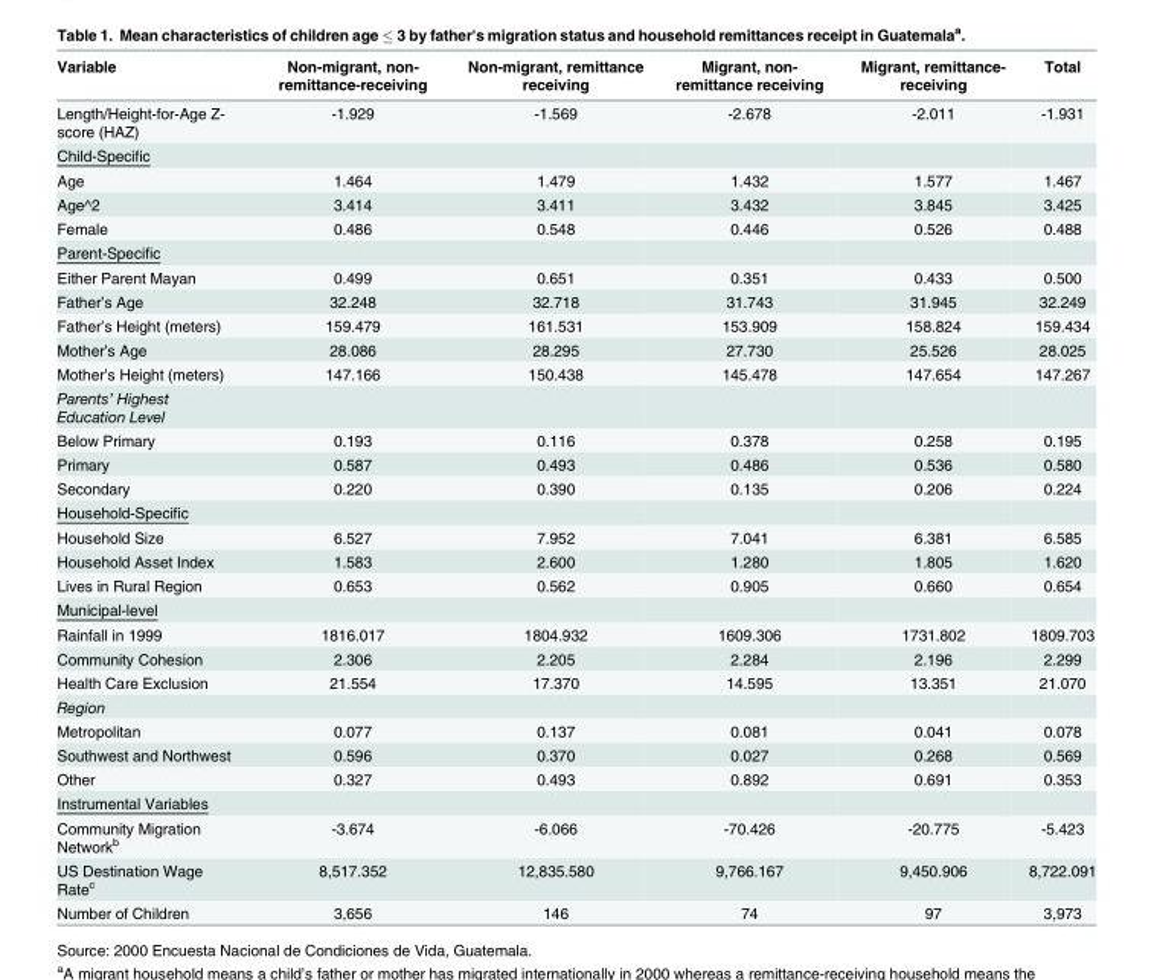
<table><thead><tr><td>Variable</td><td>Non-migrant, non- remittance-receiving</td><td>Non-migrant, remittance receiving</td><td>Migrant, non- remittance receiving</td><td>Migrant, remittance- receiving</td><td>Total</td></tr></thead><tbody><tr><td>Length/Height-for-Age Z- score (HAZ)</td><td>-1.929</td><td>-1.569</td><td>-2.678</td><td>-2.011</td><td>-1.931</td></tr><tr><td colspan="6">Child-Specific</td></tr><tr><td>Age</td><td>1.464</td><td>1.479</td><td>1.432</td><td>1.577</td><td>1.467</td></tr><tr><td>Age^2</td><td>3.414</td><td>3.411</td><td>3.432</td><td>3.845</td><td>3.425</td></tr><tr><td>Female</td><td>0.486</td><td>0.548</td><td>0.446</td><td>0.526</td><td>0.488</td></tr><tr><td colspan="6">Parent-Specific</td></tr><tr><td>Either Parent Mayan</td><td>0.499</td><td>0.651</td><td>0.351</td><td>0.433</td><td>0.500</td></tr><tr><td>Father’s Age</td><td>32.248</td><td>32.718</td><td>31.743</td><td>31.945</td><td>32.249</td></tr><tr><td>Father’s Height (meters)</td><td>159.479</td><td>161.531</td><td>153.909</td><td>158.824</td><td>159.434</td></tr><tr><td>Mother’s Age</td><td>28.086</td><td>28.295</td><td>27.730</td><td>25.526</td><td>28.025</td></tr><tr><td>Mother’s Height (meters)</td><td>147.166</td><td>150.438</td><td>145.478</td><td>147.654</td><td>147.267</td></tr><tr><td colspan="6">Parents’ Highest Education Level</td></tr><tr><td>Below Primary</td><td>0.193</td><td>0.116</td><td>0.378</td><td>0.258</td><td>0.195</td></tr><tr><td>Primary</td><td>0.587</td><td>0.493</td><td>0.486</td><td>0.536</td><td>0.580</td></tr><tr><td>Secondary</td><td>0.220</td><td>0.390</td><td>0.135</td><td>0.206</td><td>0.224</td></tr><tr><td colspan="6">Household-Specific</td></tr><tr><td>Household Size</td><td>6.527</td><td>7.952</td><td>7.041</td><td>6.381</td><td>6.585</td></tr><tr><td>Household Asset Index</td><td>1.583</td><td>2.600</td><td>1.280</td><td>1.805</td><td>1.620</td></tr><tr><td>Lives in Rural Region</td><td>0.653</td><td>0.562</td><td>0.905</td><td>0.660</td><td>0.654</td></tr><tr><td colspan="6">Municipal-level</td></tr><tr><td>Rainfall in 1999</td><td>1816.017</td><td>1804.932</td><td>1609.306</td><td>1731.802</td><td>1809.703</td></tr><tr><td>Community Cohesion</td><td>2.306</td><td>2.205</td><td>2.284</td><td>2.196</td><td>2.299</td></tr><tr><td>Health Care Exclusion</td><td>21.554</td><td>17.370</td><td>14.595</td><td>13.351</td><td>21.070</td></tr><tr><td colspan="6">Region</td></tr><tr><td>Metropolitan</td><td>0.077</td><td>0.137</td><td>0.081</td><td>0.041</td><td>0.078</td></tr><tr><td>Southwest and Northwest</td><td>0.596</td><td>0.370</td><td>0.027</td><td>0.268</td><td>0.569</td></tr><tr><td>Other</td><td>0.327</td><td>0.493</td><td>0.892</td><td>0.691</td><td>0.353</td></tr><tr><td colspan="6">Instrumental Variables</td></tr><tr><td>Community Migration Network<sup>b</sup></td><td>-3.674</td><td>-6.066</td><td>-70.426</td><td>-20.775</td><td>-5.423</td></tr><tr><td>US Destination Wage Rate<sup>c</sup></td><td>8,517.352</td><td>12,835.580</td><td>9,766.167</td><td>9,450.906</td><td>8,722.091</td></tr><tr><td>Number of Children</td><td>3,656</td><td>146</td><td>74</td><td>97</td><td>3,973</td></tr></tbody></table>